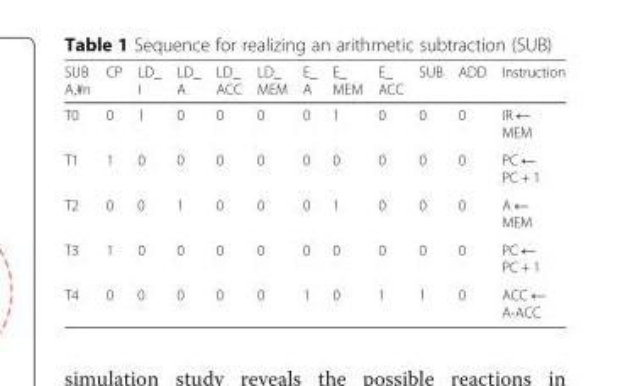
<table><thead><tr><td>SUB A,#n</td><td>CP</td><td>LD_ I</td><td>LD_ A</td><td>LD_ ACC</td><td>LD_ MEM</td><td>E_ A</td><td>E_ MEM</td><td>E_ ACC</td><td>SUB</td><td>ADD</td><td>Instruction</td></tr></thead><tbody><tr><td>T0</td><td>0</td><td>1</td><td>0</td><td>0</td><td>0</td><td>0</td><td>1</td><td>0</td><td>0</td><td>0</td><td>IR ← MEM</td></tr><tr><td>T1</td><td>1</td><td>0</td><td>0</td><td>0</td><td>0</td><td>0</td><td>0</td><td>0</td><td>0</td><td>0</td><td>PC ← PC + 1</td></tr><tr><td>T2</td><td>0</td><td>0</td><td>1</td><td>0</td><td>0</td><td>0</td><td>1</td><td>0</td><td>0</td><td>0</td><td>A ← MEM</td></tr><tr><td>T3</td><td>1</td><td>0</td><td>0</td><td>0</td><td>0</td><td>0</td><td>0</td><td>0</td><td>0</td><td>0</td><td>PC ← PC + 1</td></tr><tr><td>T4</td><td>0</td><td>0</td><td>0</td><td>0</td><td>0</td><td>1</td><td>0</td><td>1</td><td>1</td><td>0</td><td>ACC ← A-ACC</td></tr></tbody></table>